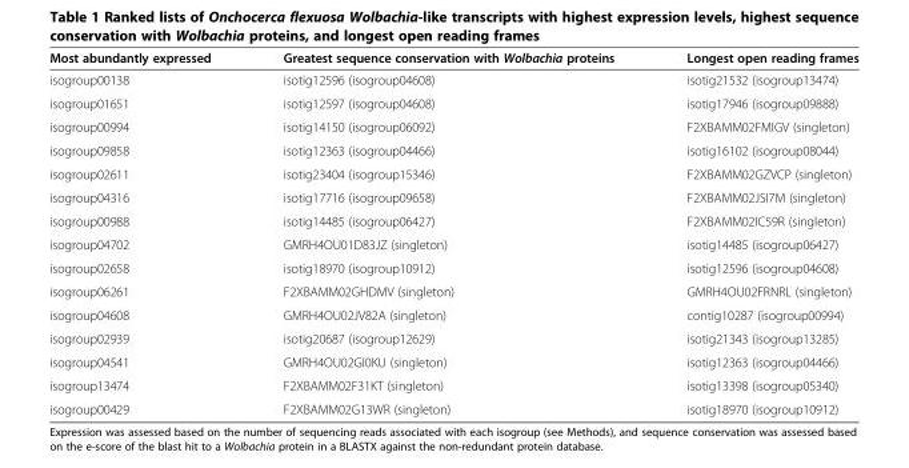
<table><thead><tr><td>Most abundantly expressed</td><td>Greatest sequence conservation with Wolbachia proteins</td><td>Longest open reading frames</td></tr></thead><tbody><tr><td>isogroup00138</td><td>isotig12596 (isogroup04608)</td><td>isotig21532 (isogroup13474)</td></tr><tr><td>isogroup01651</td><td>isotig12597 (isogroup04608)</td><td>isotig17946 (isogroup09888)</td></tr><tr><td>isogroup00994</td><td>isotig14150 (isogroup06092)</td><td>F2XBAMM02FMIGV (singleton)</td></tr><tr><td>isogroup09858</td><td>isotig12363 (isogroup04466)</td><td>isotig16102 (isogroup08044)</td></tr><tr><td>isogroup02611</td><td>isotig23404 (isogroup15346)</td><td>F2XBAMM02GZVCP (singleton)</td></tr><tr><td>isogroup04316</td><td>isotig17716 (isogroup09658)</td><td>F2XBAMM02JSI7M (singleton)</td></tr><tr><td>isogroup00988</td><td>isotig14485 (isogroup06427)</td><td>F2XBAMM02IC59R (singleton)</td></tr><tr><td>isogroup04702</td><td>GMRH4OU01D83JZ (singleton)</td><td>isotig14485 (isogroup06427)</td></tr><tr><td>isogroup02658</td><td>isotig18970 (isogroup10912)</td><td>isotig12596 (isogroup04608)</td></tr><tr><td>isogroup06261</td><td>F2XBAMM02GHDMV (singleton)</td><td>GMRH4OU02FRNRL (singleton)</td></tr><tr><td>isogroup04608</td><td>GMRH4OU02JV82A (singleton)</td><td>contig10287 (isogroup00994)</td></tr><tr><td>isogroup02939</td><td>isotig20687 (isogroup12629)</td><td>isotig21343 (isogroup13285)</td></tr><tr><td>isogroup04541</td><td>GMRH4OU02GI0KU (singleton)</td><td>isotig12363 (isogroup04466)</td></tr><tr><td>isogroup13474</td><td>F2XBAMM02F31KT (singleton)</td><td>isotig13398 (isogroup05340)</td></tr><tr><td>isogroup00429</td><td>F2XBAMM02G13WR (singleton)</td><td>isotig18970 (isogroup10912)</td></tr></tbody></table>